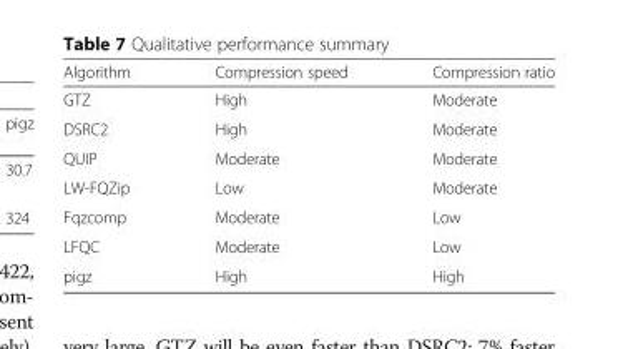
<table><thead><tr><td>Algorithm</td><td>Compression speed</td><td>Compression ratio</td></tr></thead><tbody><tr><td>GTZ</td><td>High</td><td>Moderate</td></tr><tr><td>DSRC2</td><td>High</td><td>Moderate</td></tr><tr><td>QUIP</td><td>Moderate</td><td>Moderate</td></tr><tr><td>LW-FQZip</td><td>Low</td><td>Moderate</td></tr><tr><td>Fqzcomp</td><td>Moderate</td><td>Low</td></tr><tr><td>LFQC</td><td>Moderate</td><td>Low</td></tr><tr><td>pigz</td><td>High</td><td>High</td></tr></tbody></table>